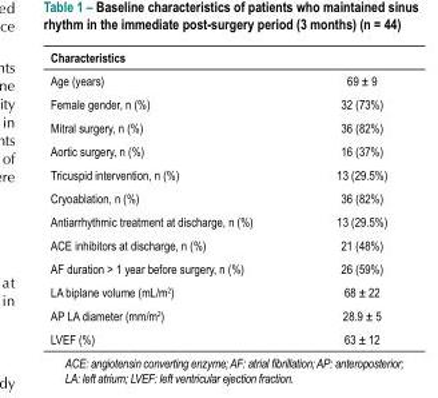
<table><thead><tr><td>Characteristics</td><td></td></tr></thead><tbody><tr><td>Age (years)</td><td>69 ± 9</td></tr><tr><td>Female gender, n (%)</td><td>32 (73%)</td></tr><tr><td>Mitral surgery, n (%)</td><td>36 (82%)</td></tr><tr><td>Aortic surgery, n (%)</td><td>16 (37%)</td></tr><tr><td>Tricuspid intervention, n (%)</td><td>13 (29.5%)</td></tr><tr><td>Cryoablation, n (%)</td><td>36 (82%)</td></tr><tr><td>Antiarrhythmic treatment at discharge, n (%)</td><td>13 (29.5%)</td></tr><tr><td>ACE inhibitors at discharge, n (%)</td><td>21 (48%)</td></tr><tr><td>AF duration &gt; 1 year before surgery, n (%)</td><td>26 (59%)</td></tr><tr><td>LA biplane volume (mL/m<sup>2</sup>)</td><td>68 ± 22</td></tr><tr><td>AP LA diameter (mm/m<sup>2</sup>)</td><td>28.9 ± 5</td></tr><tr><td>LVEF (%)</td><td>63 ± 12</td></tr></tbody></table>